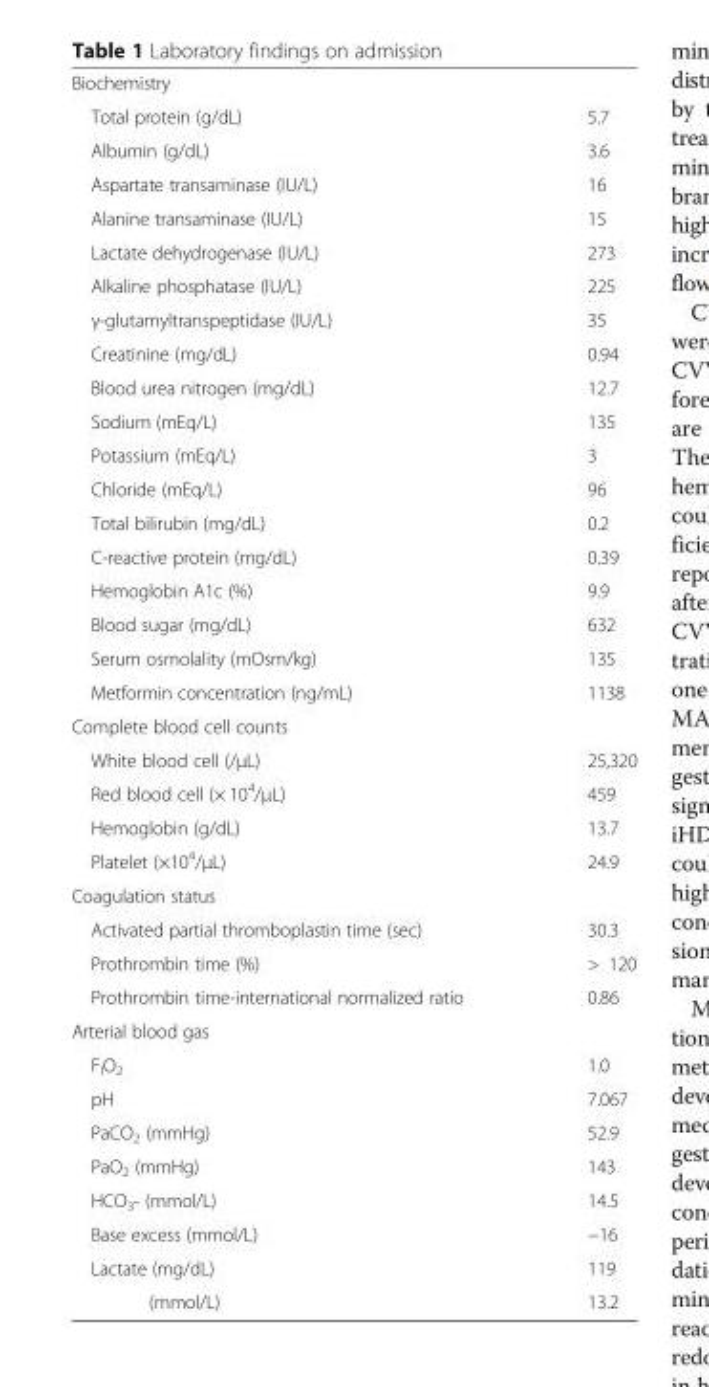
<table><tbody><tr><td colspan="2">Biochemistry</td></tr><tr><td>Total protein (g/dL)</td><td>5.7</td></tr><tr><td>Albumin (g/dL)</td><td>3.6</td></tr><tr><td>Aspartate transaminase (IU/L)</td><td>16</td></tr><tr><td>Alanine transaminase (IU/L)</td><td>15</td></tr><tr><td>Lactate dehydrogenase (IU/L)</td><td>273</td></tr><tr><td>Alkaline phosphatase (IU/L)</td><td>225</td></tr><tr><td>γ-glutamyltranspeptidase (IU/L)</td><td>35</td></tr><tr><td>Creatinine (mg/dL)</td><td>0.94</td></tr><tr><td>Blood urea nitrogen (mg/dL)</td><td>12.7</td></tr><tr><td>Sodium (mEq/L)</td><td>135</td></tr><tr><td>Potassium (mEq/L)</td><td>3</td></tr><tr><td>Chloride (mEq/L)</td><td>96</td></tr><tr><td>Total bilirubin (mg/dL)</td><td>0.2</td></tr><tr><td>C-reactive protein (mg/dL)</td><td>0.39</td></tr><tr><td>Hemoglobin A1c (%)</td><td>9.9</td></tr><tr><td>Blood sugar (mg/dL)</td><td>632</td></tr><tr><td>Serum osmolality (mOsm/kg)</td><td>135</td></tr><tr><td>Metformin concentration (ng/mL)</td><td>1138</td></tr><tr><td colspan="2">Complete blood cell counts</td></tr><tr><td>White blood cell (/μL)</td><td>25,320</td></tr><tr><td>Red blood cell (× 10<sup>4</sup>/μL)</td><td>459</td></tr><tr><td>Hemoglobin (g/dL)</td><td>13.7</td></tr><tr><td>Platelet (×10<sup>4</sup>/μL)</td><td>24.9</td></tr><tr><td colspan="2">Coagulation status</td></tr><tr><td>Activated partial thromboplastin time (sec)</td><td>30.3</td></tr><tr><td>Prothrombin time (%)</td><td>&gt; 120</td></tr><tr><td>Prothrombin time-international normalized ratio</td><td>0.86</td></tr><tr><td colspan="2">Arterial blood gas</td></tr><tr><td>F<sub>I</sub>O<sub>2</sub></td><td>1.0</td></tr><tr><td>pH</td><td>7.067</td></tr><tr><td>PaCO<sub>2</sub> (mmHg)</td><td>52.9</td></tr><tr><td>PaO<sub>2</sub> (mmHg)</td><td>143</td></tr><tr><td>HCO<sub>3</sub>- (mmol/L)</td><td>14.5</td></tr><tr><td>Base excess (mmol/L)</td><td>−16</td></tr><tr><td>Lactate (mg/dL)</td><td>119</td></tr><tr><td>(mmol/L)</td><td>13.2</td></tr></tbody></table>